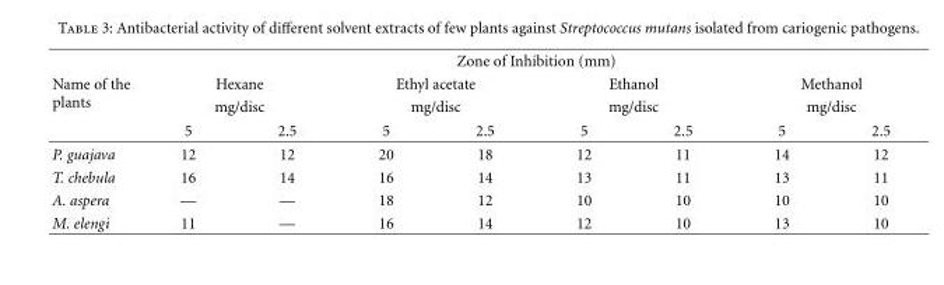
<table><thead><tr><td rowspan="4">Name of the plants</td><td colspan="8">Zone of Inhibition (mm)</td></tr><tr><td rowspan="2" colspan="2">Hexane mg/disc</td><td rowspan="2" colspan="2">Ethyl acetate mg/disc</td><td rowspan="2" colspan="2">Ethanol mg/disc</td><td rowspan="2" colspan="2">Methanol mg/disc</td></tr><tr></tr><tr><td>5</td><td>2.5</td><td>5</td><td>2.5</td><td>5</td><td>2.5</td><td>5</td><td>2.5</td></tr></thead><tbody><tr><td>P. guajava</td><td>12</td><td>12</td><td>20</td><td>18</td><td>12</td><td>11</td><td>14</td><td>12</td></tr><tr><td>T. chebula</td><td>16</td><td>14</td><td>16</td><td>14</td><td>13</td><td>11</td><td>13</td><td>11</td></tr><tr><td>A. aspera</td><td>—</td><td>—</td><td>18</td><td>12</td><td>10</td><td>10</td><td>10</td><td>10</td></tr><tr><td>M. elengi</td><td>11</td><td>—</td><td>16</td><td>14</td><td>12</td><td>10</td><td>13</td><td>10</td></tr></tbody></table>